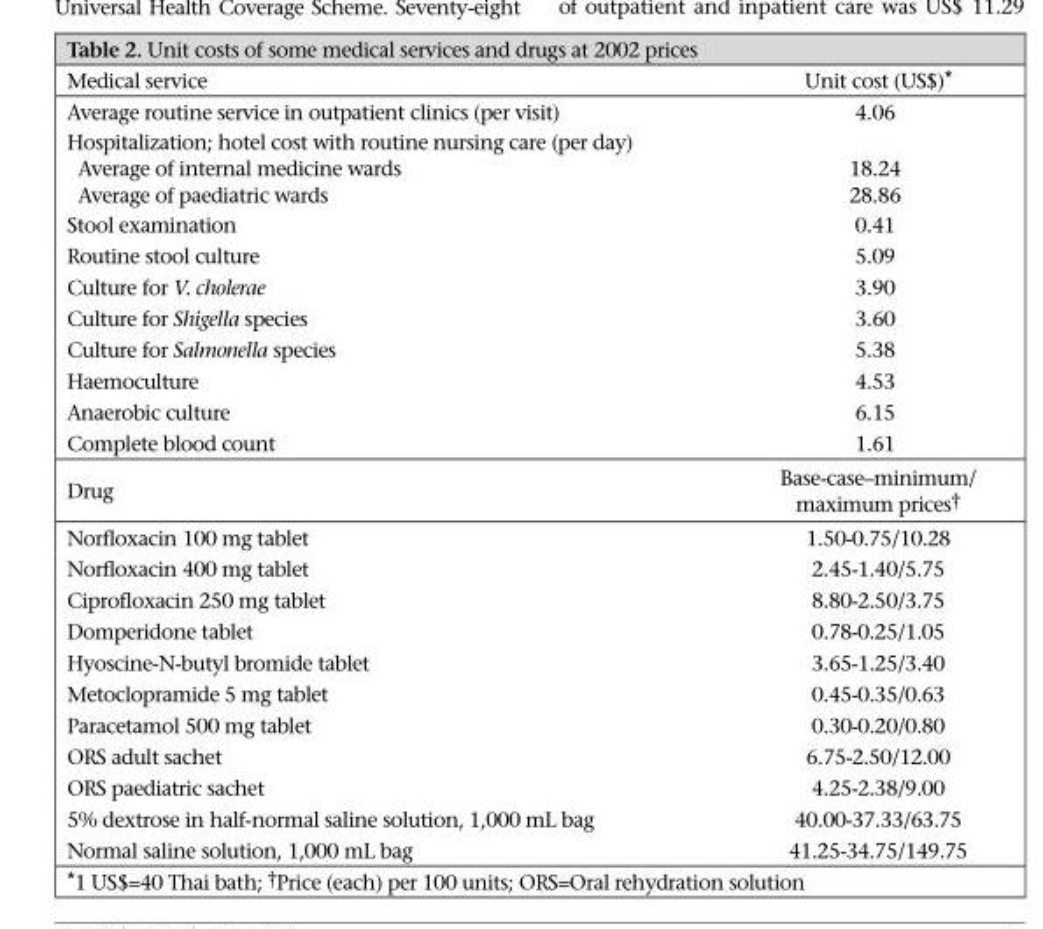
<table><thead><tr><td>Medical service</td><td>Unit cost (US$)*</td></tr></thead><tbody><tr><td>Average routine service in outpatient clinics (per visit)</td><td>4.06</td></tr><tr><td colspan="2">Hospitalization; hotel cost with routine nursing care (per day)</td></tr><tr><td>Average of internal medicine wards</td><td>18.24</td></tr><tr><td>Average of paediatric wards</td><td>28.86</td></tr><tr><td>Stool examination</td><td>0.41</td></tr><tr><td>Routine stool culture</td><td>5.09</td></tr><tr><td>Culture for V. cholerae</td><td>3.90</td></tr><tr><td>Culture for Shigella species</td><td>3.60</td></tr><tr><td>Culture for Salmonella species</td><td>5.38</td></tr><tr><td>Haemoculture</td><td>4.53</td></tr><tr><td>Anaerobic culture</td><td>6.15</td></tr><tr><td>Complete blood count</td><td>1.61</td></tr><tr><td>Drug</td><td>Base-case–minimum/ maximum prices†</td></tr><tr><td>Norfloxacin 100 mg tablet</td><td>1.50-0.75/10.28</td></tr><tr><td>Norfloxacin 400 mg tablet</td><td>2.45-1.40/5.75</td></tr><tr><td>Ciprofloxacin 250 mg tablet</td><td>8.80-2.50/3.75</td></tr><tr><td>Domperidone tablet</td><td>0.78-0.25/1.05</td></tr><tr><td>Hyoscine-N-butyl bromide tablet</td><td>3.65-1.25/3.40</td></tr><tr><td>Metoclopramide 5 mg tablet</td><td>0.45-0.35/0.63</td></tr><tr><td>Paracetamol 500 mg tablet</td><td>0.30-0.20/0.80</td></tr><tr><td>ORS adult sachet</td><td>6.75-2.50/12.00</td></tr><tr><td>ORS paediatric sachet</td><td>4.25-2.38/9.00</td></tr><tr><td>5% dextrose in half-normal saline solution, 1,000 mL bag</td><td>40.00-37.33/63.75</td></tr><tr><td>Normal saline solution, 1,000 mL bag</td><td>41.25-34.75/149.75</td></tr></tbody></table>